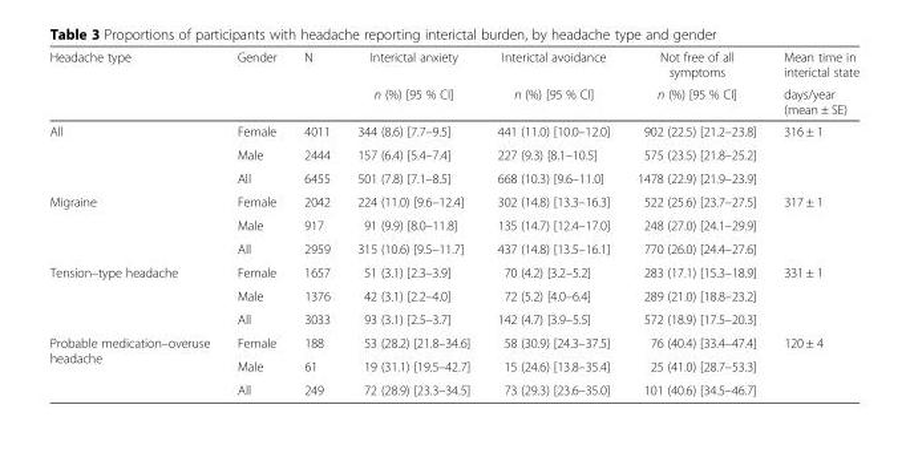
<table><thead><tr><td rowspan="2">Headache type</td><td rowspan="2">Gender</td><td rowspan="2">N</td><td rowspan="2">Interictal anxiety n (%) [95 % CI]</td><td rowspan="2">Interictal avoidance n (%) [95 % CI]</td><td rowspan="2">Not free of all symptoms n (%) [95 % CI]</td><td rowspan="2">Mean time in interictal state days/year (mean ± SE)</td></tr><tr></tr></thead><tbody><tr><td rowspan="3">All</td><td>Female</td><td>4011</td><td>344 (8.6) [7.7–9.5]</td><td>441 (11.0) [10.0–12.0]</td><td>902 (22.5) [21.2–23.8]</td><td rowspan="3">316 ± 1</td></tr><tr><td>Male</td><td>2444</td><td>157 (6.4) [5.4–7.4]</td><td>227 (9.3) [8.1–10.5]</td><td>575 (23.5) [21.8–25.2]</td></tr><tr><td>All</td><td>6455</td><td>501 (7.8) [7.1–8.5]</td><td>668 (10.3) [9.6–11.0]</td><td>1478 (22.9) [21.9–23.9]</td></tr><tr><td rowspan="3">Migraine</td><td>Female</td><td>2042</td><td>224 (11.0) [9.6–12.4]</td><td>302 (14.8) [13.3–16.3]</td><td>522 (25.6) [23.7–27.5]</td><td rowspan="3">317 ± 1</td></tr><tr><td>Male</td><td>917</td><td>91 (9.9) [8.0–11.8]</td><td>135 (14.7) [12.4–17.0]</td><td>248 (27.0) [24.1–29.9]</td></tr><tr><td>All</td><td>2959</td><td>315 (10.6) [9.5–11.7]</td><td>437 (14.8) [13.5–16.1]</td><td>770 (26.0) [24.4–27.6]</td></tr><tr><td rowspan="3">Tension–type headache</td><td>Female</td><td>1657</td><td>51 (3.1) [2.3–3.9]</td><td>70 (4.2) [3.2–5.2]</td><td>283 (17.1) [15.3–18.9]</td><td rowspan="3">331 ± 1</td></tr><tr><td>Male</td><td>1376</td><td>42 (3.1) [2.2–4.0]</td><td>72 (5.2) [4.0–6.4]</td><td>289 (21.0) [18.8–23.2]</td></tr><tr><td>All</td><td>3033</td><td>93 (3.1) [2.5–3.7]</td><td>142 (4.7) [3.9–5.5]</td><td>572 (18.9) [17.5–20.3]</td></tr><tr><td rowspan="3">Probable medication–overuse headache</td><td>Female</td><td>188</td><td>53 (28.2) [21.8–34.6]</td><td>58 (30.9) [24.3–37.5]</td><td>76 (40.4) [33.4–47.4]</td><td rowspan="3">120 ± 4</td></tr><tr><td>Male</td><td>61</td><td>19 (31.1) [19.5–42.7]</td><td>15 (24.6) [13.8–35.4]</td><td>25 (41.0) [28.7–53.3]</td></tr><tr><td>All</td><td>249</td><td>72 (28.9) [23.3–34.5]</td><td>73 (29.3) [23.6–35.0]</td><td>101 (40.6) [34.5–46.7]</td></tr></tbody></table>